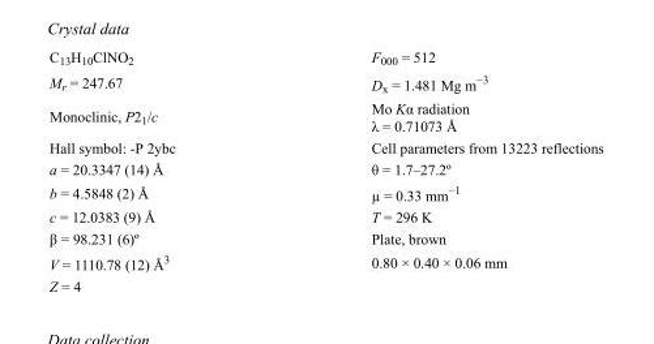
<table><tbody><tr><td>C<sub>13</sub>H<sub>10</sub>ClNO<sub>2</sub></td><td>F000 = 512</td></tr><tr><td>M<sub>r</sub> = 247.67</td><td>D<sub>x</sub> = 1.481 Mg m<sup>−3</sup></td></tr><tr><td>Monoclinic, P2<sub>1</sub>/c</td><td>Mo Kα radiation λ = 0.71073 Å</td></tr><tr><td>Hall symbol: -P 2ybc</td><td>Cell parameters from 13223 reflections</td></tr><tr><td>a = 20.3347 (14) Å</td><td>θ = 1.7–27.2º</td></tr><tr><td>b = 4.5848 (2) Å</td><td>µ = 0.33 mm<sup>−1</sup></td></tr><tr><td>c = 12.0383 (9) Å</td><td>T = 296 K</td></tr><tr><td>β = 98.231 (6)º</td><td>Plate, brown</td></tr><tr><td>V = 1110.78 (12) Å<sup>3</sup></td><td>0.80 × 0.40 × 0.06 mm</td></tr><tr><td>Z = 4</td><td></td></tr></tbody></table>